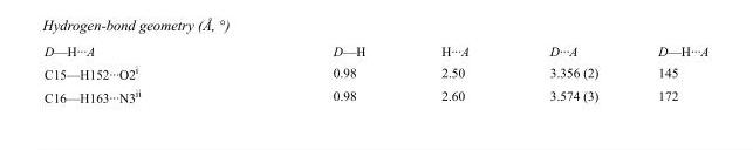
<table><tbody><tr><td>D—H···A</td><td>D—H</td><td>H···A</td><td>D···A</td><td>D—H···A</td></tr><tr><td>C15—H152···O2<sup>i</sup></td><td>0.98</td><td>2.50</td><td>3.356 (2)</td><td>145</td></tr><tr><td>C16—H163···N3<sup>ii</sup></td><td>0.98</td><td>2.60</td><td>3.574 (3)</td><td>172</td></tr></tbody></table>